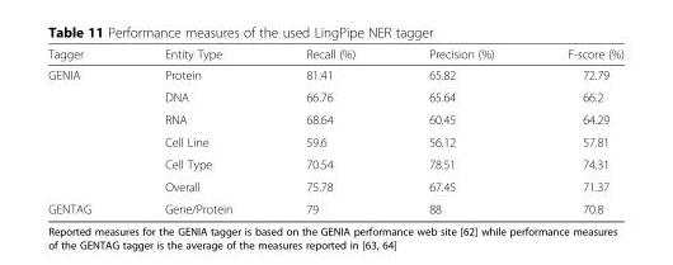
<table><thead><tr><td>Tagger</td><td>Entity Type</td><td>Recall (%)</td><td>Precision (%)</td><td>F-score (%)</td></tr></thead><tbody><tr><td rowspan="6">GENIA</td><td>Protein</td><td>81.41</td><td>65.82</td><td>72.79</td></tr><tr><td>DNA</td><td>66.76</td><td>65.64</td><td>66.2</td></tr><tr><td>RNA</td><td>68.64</td><td>60.45</td><td>64.29</td></tr><tr><td>Cell Line</td><td>59.6</td><td>56.12</td><td>57.81</td></tr><tr><td>Cell Type</td><td>70.54</td><td>78.51</td><td>74.31</td></tr><tr><td>Overall</td><td>75.78</td><td>67.45</td><td>71.37</td></tr><tr><td>GENTAG</td><td>Gene/Protein</td><td>79</td><td>88</td><td>70.8</td></tr></tbody></table>